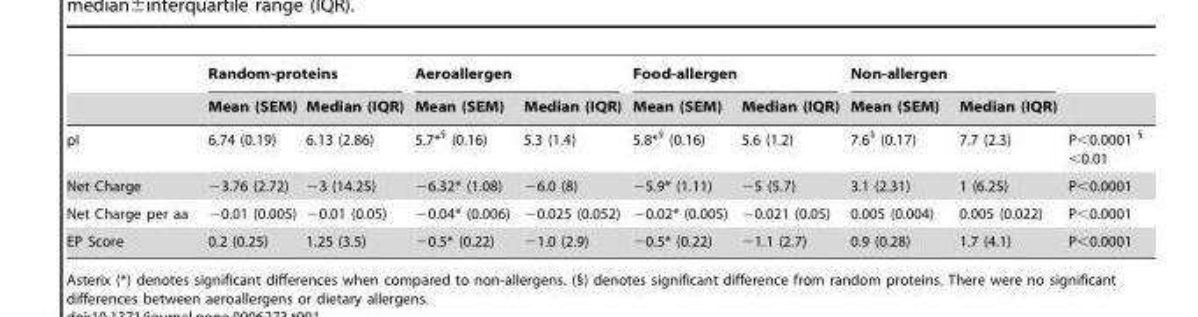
<table><thead><tr><td rowspan="2"></td><td colspan="2">Random-proteins</td><td colspan="2">Aeroallergen</td><td colspan="2">Food-allergen</td><td colspan="2">Non-allergen</td><td rowspan="2"></td></tr><tr><td>Mean (SEM)</td><td>Median (IQR)</td><td>Mean (SEM)</td><td>Median (IQR)</td><td>Mean (SEM)</td><td>Median (IQR)</td><td>Mean (SEM)</td><td>Median (IQR)</td></tr></thead><tbody><tr><td>pI</td><td>6.74 (0.19)</td><td>6.13 (2.86)</td><td>5.7*<sup>§</sup> (0.16)</td><td>5.3 (1.4)</td><td>5.8*<sup>§</sup> (0.16)</td><td>5.6 (1.2)</td><td>7.6<sup>§</sup> (0.17)</td><td>7.7 (2.3)</td><td>P,0.0001 ,0.01</td></tr><tr><td>Net Charge</td><td>−3.76 (2.72)</td><td>−3 (14.25)</td><td>−6.32* (1.08)</td><td>−6.0 (8)</td><td>−5.9* (1.11)</td><td>−5 (5.7)</td><td>3.1 (2.31)</td><td>1 (6.25)</td><td>P&lt;0.0001</td></tr><tr><td>Net Charge per aa</td><td>−0.01 (0.005)</td><td>−0.01 (0.05)</td><td>−0.04* (0.006)</td><td>−0.025 (0.052)</td><td>−0.02* (0.005)</td><td>−0.021 (0.05)</td><td>0.005 (0.004)</td><td>0.005 (0.022)</td><td>P&lt;0.0001</td></tr><tr><td>EP Score</td><td>0.2 (0.25)</td><td>1.25 (3.5)</td><td>−0.5* (0.22)</td><td>−1.0 (2.9)</td><td>−0.5* (0.22)</td><td>−1.1 (2.7)</td><td>0.9 (0.28)</td><td>1.7 (4.1)</td><td>P&lt;0.0001</td></tr></tbody></table>